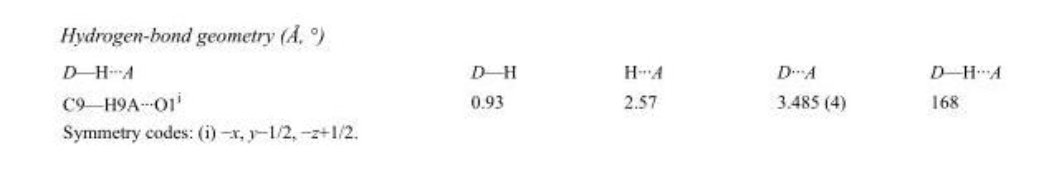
<table><tbody><tr><td>D—H···A</td><td>D—H</td><td>H···A</td><td>D···A</td><td>D—H···A</td></tr><tr><td>C9—H9A···O1<sup>i</sup></td><td>0.93</td><td>2.57</td><td>3.485 (4)</td><td>168</td></tr></tbody></table>